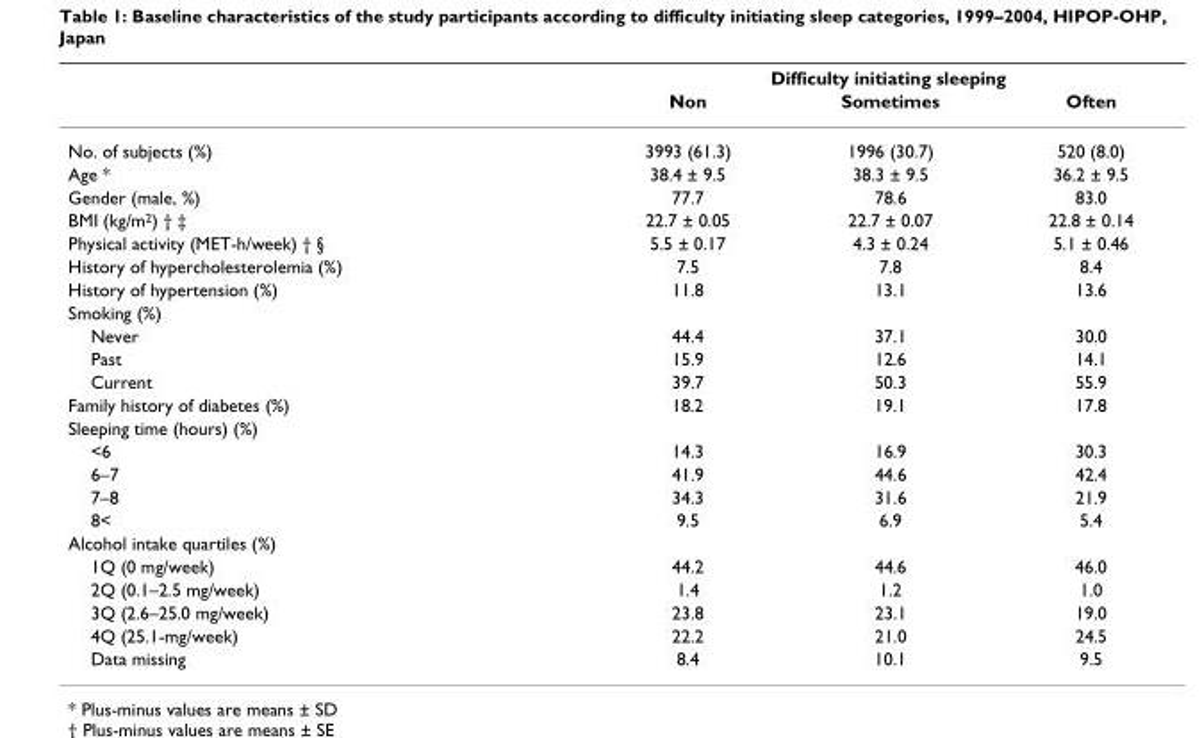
<table><thead><tr><td rowspan="2"></td><td colspan="3">Difficulty initiating sleeping</td></tr><tr><td>Non</td><td>Sometimes</td><td>Often</td></tr></thead><tbody><tr><td>No. of subjects (%)</td><td>3993 (61.3)</td><td>1996 (30.7)</td><td>520 (8.0)</td></tr><tr><td>Age *</td><td>38.4 ± 9.5</td><td>38.3 ± 9.5</td><td>36.2 ± 9.5</td></tr><tr><td>Gender (male, %)</td><td>77.7</td><td>78.6</td><td>83.0</td></tr><tr><td>BMI (kg/m<sup>2</sup>) † ‡</td><td>22.7 ± 0.05</td><td>22.7 ± 0.07</td><td>22.8 ± 0.14</td></tr><tr><td>Physical activity (MET-h/week) † §</td><td>5.5 ± 0.17</td><td>4.3 ± 0.24</td><td>5.1 ± 0.46</td></tr><tr><td>History of hypercholesterolemia (%)</td><td>7.5</td><td>7.8</td><td>8.4</td></tr><tr><td>History of hypertension (%)</td><td>11.8</td><td>13.1</td><td>13.6</td></tr><tr><td colspan="4">Smoking (%)</td></tr><tr><td>Never</td><td>44.4</td><td>37.1</td><td>30.0</td></tr><tr><td>Past</td><td>15.9</td><td>12.6</td><td>14.1</td></tr><tr><td>Current</td><td>39.7</td><td>50.3</td><td>55.9</td></tr><tr><td>Family history of diabetes (%)</td><td>18.2</td><td>19.1</td><td>17.8</td></tr><tr><td colspan="4">Sleeping time (hours) (%)</td></tr><tr><td>&lt;6</td><td>14.3</td><td>16.9</td><td>30.3</td></tr><tr><td>6–7</td><td>41.9</td><td>44.6</td><td>42.4</td></tr><tr><td>7–8</td><td>34.3</td><td>31.6</td><td>21.9</td></tr><tr><td>8&lt;</td><td>9.5</td><td>6.9</td><td>5.4</td></tr><tr><td colspan="4">Alcohol intake quartiles (%)</td></tr><tr><td>1Q (0 mg/week)</td><td>44.2</td><td>44.6</td><td>46.0</td></tr><tr><td>2Q (0.1–2.5 mg/week)</td><td>1.4</td><td>1.2</td><td>1.0</td></tr><tr><td>3Q (2.6–25.0 mg/week)</td><td>23.8</td><td>23.1</td><td>19.0</td></tr><tr><td>4Q (25.1-mg/week)</td><td>22.2</td><td>21.0</td><td>24.5</td></tr><tr><td>Data missing</td><td>8.4</td><td>10.1</td><td>9.5</td></tr></tbody></table>